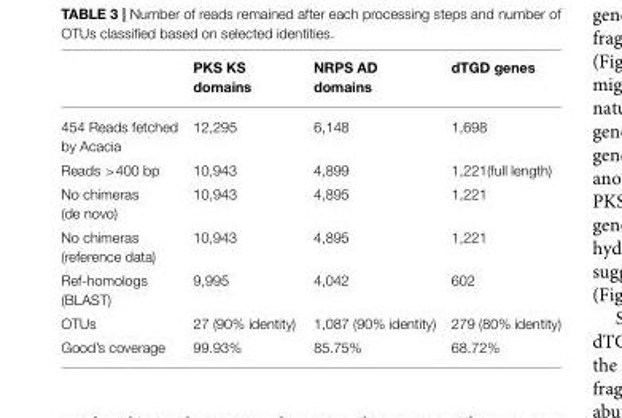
<table><thead><tr><td></td><td>PKS KS domains</td><td>NRPS AD domains</td><td>dTGD genes</td></tr></thead><tbody><tr><td>454 Reads fetched by Acacia</td><td>12,295</td><td>6,148</td><td>1,698</td></tr><tr><td>Reads &gt;400 bp</td><td>10,943</td><td>4,899</td><td>1,221(full length)</td></tr><tr><td>No chimeras (de novo)</td><td>10,943</td><td>4,895</td><td>1,221</td></tr><tr><td>No chimeras (reference data)</td><td>10,943</td><td>4,895</td><td>1,221</td></tr><tr><td>Ref-homologs (BLAST)</td><td>9,995</td><td>4,042</td><td>602</td></tr><tr><td>OTUs</td><td>27 (90% identity)</td><td>1,087 (90% identity)</td><td>279 (80% identity)</td></tr><tr><td>Good’s coverage</td><td>99.93%</td><td>85.75%</td><td>68.72%</td></tr></tbody></table>